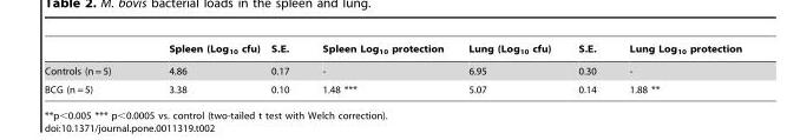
<table><thead><tr><td></td><td>Spleen (Log<sub>10</sub> cfu)</td><td>S.E.</td><td>Spleen Log<sub>10</sub> protection</td><td>Lung (Log<sub>10</sub> cfu)</td><td>S.E.</td><td>Lung Log<sub>10</sub> protection</td></tr></thead><tbody><tr><td>Controls (n = 5)</td><td>4.86</td><td>0.17</td><td>-</td><td>6.95</td><td>0.30</td><td>-</td></tr><tr><td>BCG (n = 5)</td><td>3.38</td><td>0.10</td><td>1.48 ***</td><td>5.07</td><td>0.14</td><td>1.88 **</td></tr></tbody></table>